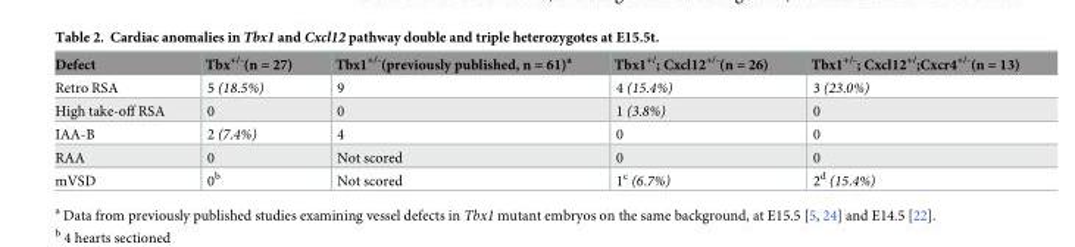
<table><thead><tr><td>Defect</td><td>Tbx<sup>+/-</sup>(n = 27)</td><td>Tbx1<sup>+/-</sup>(previously published, n = 61)<sup>a</sup></td><td>Tbx1<sup>+/</sup>; Cxcl12<sup>+/-</sup>(n = 26)</td><td>Tbx1<sup>+/-</sup>; Cxcl12<sup>+/</sup>;Cxcr4<sup>+/-</sup>(n = 13)</td></tr></thead><tbody><tr><td>Retro RSA</td><td>5 (18.5%)</td><td>9</td><td>4 (15.4%)</td><td>3 (23.0%)</td></tr><tr><td>High take-off RSA</td><td>0</td><td>0</td><td>1 (3.8%)</td><td>0</td></tr><tr><td>IAA-B</td><td>2 (7.4%)</td><td>4</td><td>0</td><td>0</td></tr><tr><td>RAA</td><td>0</td><td>Not scored</td><td>0</td><td>0</td></tr><tr><td>mVSD</td><td>0<sup>b</sup></td><td>Not scored</td><td>1<sup>c</sup> (6.7%)</td><td>2<sup>d</sup> (15.4%)</td></tr></tbody></table>